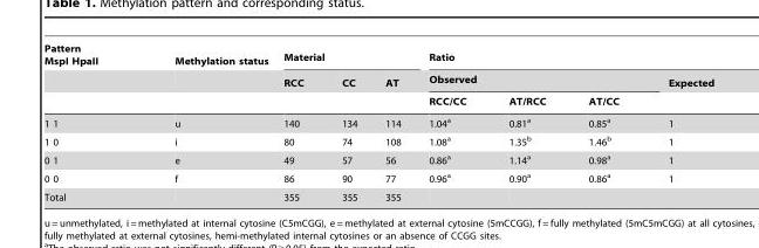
<table><thead><tr><td rowspan="3">Pattern MspI HpaII</td><td rowspan="3">Methylation status</td><td colspan="3">Material</td><td colspan="4">Ratio</td></tr><tr><td rowspan="2">RCC</td><td rowspan="2">CC</td><td rowspan="2">AT</td><td colspan="3">Observed</td><td rowspan="2">Expected</td></tr><tr><td>RCC/CC</td><td>AT/RCC</td><td>AT/CC</td></tr></thead><tbody><tr><td>1 1</td><td>u</td><td>140</td><td>134</td><td>114</td><td>1.04<sup>a</sup></td><td>0.81<sup>a</sup></td><td>0.85<sup>a</sup></td><td>1</td></tr><tr><td>1 0</td><td>i</td><td>80</td><td>74</td><td>108</td><td>1.08<sup>a</sup></td><td>1.35<sup>b</sup></td><td>1.46<sup>b</sup></td><td>1</td></tr><tr><td>0 1</td><td>e</td><td>49</td><td>57</td><td>56</td><td>0.86<sup>a</sup></td><td>1.14<sup>a</sup></td><td>0.98<sup>a</sup></td><td>1</td></tr><tr><td>0 0</td><td>f</td><td>86</td><td>90</td><td>77</td><td>0.96<sup>a</sup></td><td>0.90<sup>a</sup></td><td>0.86<sup>a</sup></td><td>1</td></tr><tr><td>Total</td><td></td><td>355</td><td>355</td><td>355</td><td></td><td></td><td></td><td></td></tr></tbody></table>